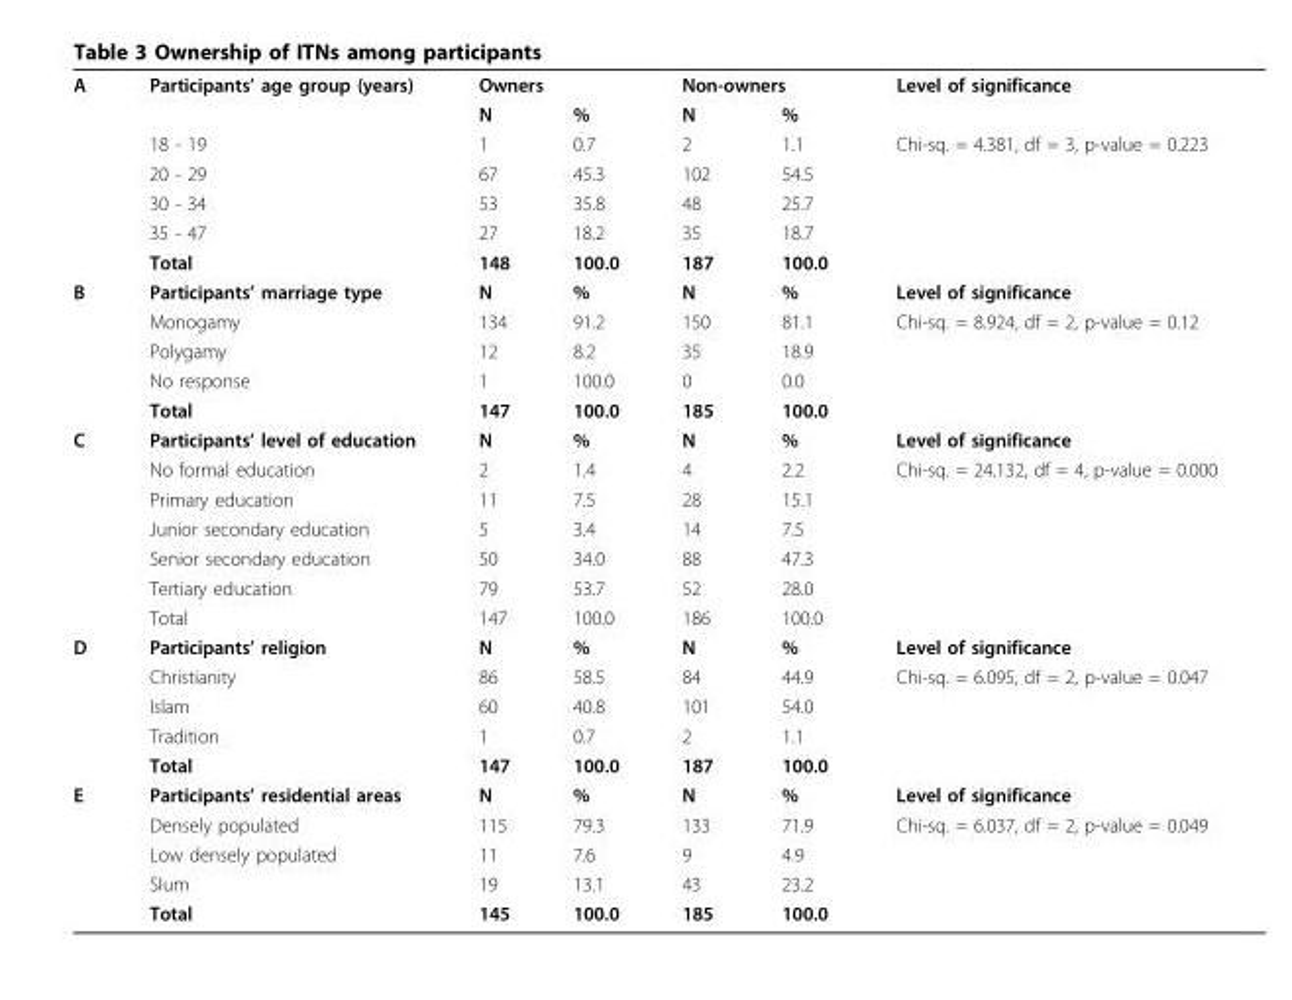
<table><tbody><tr><td rowspan="7">A</td><td>Participants’ age group (years)</td><td colspan="2">Owners</td><td colspan="2">Non-owners</td><td>Level of significance</td></tr><tr><td></td><td>N</td><td>%</td><td>N</td><td>%</td><td></td></tr><tr><td>18 - 19</td><td>1</td><td>0.7</td><td>2</td><td>1.1</td><td>Chi-sq. = 4.381, df = 3, p-value = 0.223</td></tr><tr><td>20 - 29</td><td>67</td><td>45.3</td><td>102</td><td>54.5</td><td></td></tr><tr><td>30 - 34</td><td>53</td><td>35.8</td><td>48</td><td>25.7</td><td></td></tr><tr><td>35 - 47</td><td>27</td><td>18.2</td><td>35</td><td>18.7</td><td></td></tr><tr><td>Total</td><td>148</td><td>100.0</td><td>187</td><td>100.0</td><td></td></tr><tr><td rowspan="5">B</td><td>Participants’ marriage type</td><td>N</td><td>%</td><td>N</td><td>%</td><td>Level of significance</td></tr><tr><td>Monogamy</td><td>134</td><td>91.2</td><td>150</td><td>81.1</td><td>Chi-sq. = 8.924, df = 2, p-value = 0.12</td></tr><tr><td>Polygamy</td><td>12</td><td>8.2</td><td>35</td><td>18.9</td><td></td></tr><tr><td>No response</td><td>1</td><td>100.0</td><td>0</td><td>0.0</td><td></td></tr><tr><td>Total</td><td>147</td><td>100.0</td><td>185</td><td>100.0</td><td></td></tr><tr><td rowspan="7">C</td><td>Participants’ level of education</td><td>N</td><td>%</td><td>N</td><td>%</td><td>Level of significance</td></tr><tr><td>No formal education</td><td>2</td><td>1.4</td><td>4</td><td>2.2</td><td>Chi-sq. = 24.132, df = 4, p-value = 0.000</td></tr><tr><td>Primary education</td><td>11</td><td>7.5</td><td>28</td><td>15.1</td><td></td></tr><tr><td>Junior secondary education</td><td>5</td><td>3.4</td><td>14</td><td>7.5</td><td></td></tr><tr><td>Senior secondary education</td><td>50</td><td>34.0</td><td>88</td><td>47.3</td><td></td></tr><tr><td>Tertiary education</td><td>79</td><td>53.7</td><td>52</td><td>28.0</td><td></td></tr><tr><td>Total</td><td>147</td><td>100.0</td><td>186</td><td>100.0</td><td></td></tr><tr><td rowspan="5">D</td><td>Participants’ religion</td><td>N</td><td>%</td><td>N</td><td>%</td><td>Level of significance</td></tr><tr><td>Christianity</td><td>86</td><td>58.5</td><td>84</td><td>44.9</td><td>Chi-sq. = 6.095, df = 2, p-value = 0.047</td></tr><tr><td>Islam</td><td>60</td><td>40.8</td><td>101</td><td>54.0</td><td></td></tr><tr><td>Tradition</td><td>1</td><td>0.7</td><td>2</td><td>1.1</td><td></td></tr><tr><td>Total</td><td>147</td><td>100.0</td><td>187</td><td>100.0</td><td></td></tr><tr><td rowspan="5">E</td><td>Participants’ residential areas</td><td>N</td><td>%</td><td>N</td><td>%</td><td>Level of significance</td></tr><tr><td>Densely populated</td><td>115</td><td>79.3</td><td>133</td><td>71.9</td><td>Chi-sq. = 6.037, df = 2, p-value = 0.049</td></tr><tr><td>Low densely populated</td><td>11</td><td>7.6</td><td>9</td><td>4.9</td><td></td></tr><tr><td>Slum</td><td>19</td><td>13.1</td><td>43</td><td>23.2</td><td></td></tr><tr><td>Total</td><td>145</td><td>100.0</td><td>185</td><td>100.0</td><td></td></tr></tbody></table>